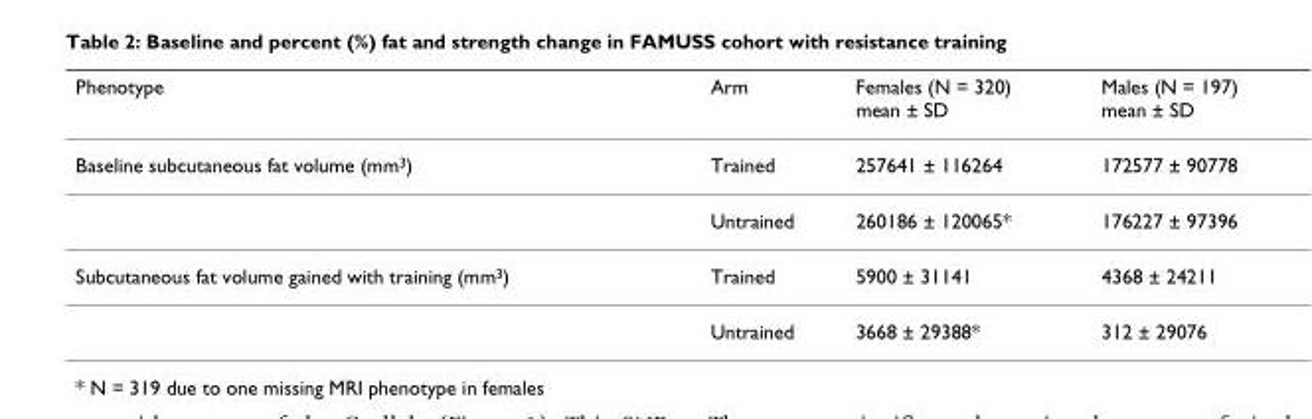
<table><thead><tr><td>Phenotype</td><td>Arm</td><td>Females (N = 320) mean ± SD</td><td>Males (N = 197) mean ± SD</td></tr></thead><tbody><tr><td rowspan="2">Baseline subcutaneous fat volume (mm<sup>3</sup>)</td><td>Trained</td><td>257641 ± 116264</td><td>172577 ± 90778</td></tr><tr><td>Untrained</td><td>260186 ± 120065*</td><td>176227 ± 97396</td></tr><tr><td rowspan="2">Subcutaneous fat volume gained with training (mm<sup>3</sup>)</td><td>Trained</td><td>5900 ± 31141</td><td>4368 ± 24211</td></tr><tr><td>Untrained</td><td>3668 ± 29388*</td><td>312 ± 29076</td></tr></tbody></table>